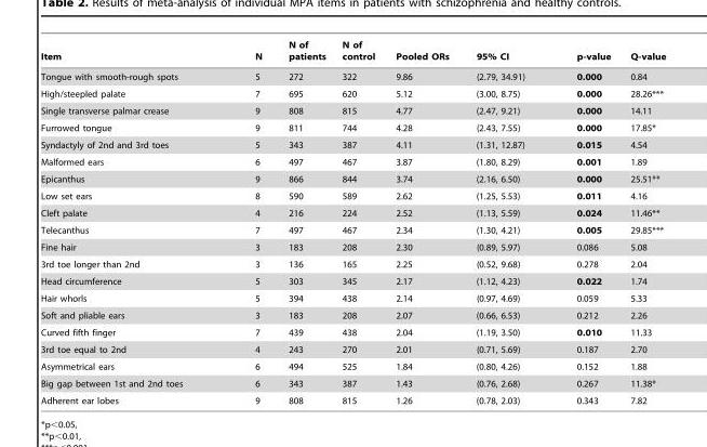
<table><thead><tr><td>Item</td><td>N</td><td>N of patients</td><td>N of control</td><td>Pooled ORs</td><td>95% CI</td><td>p-value</td><td>Q-value</td></tr></thead><tbody><tr><td>Tongue with smooth-rough spots</td><td>5</td><td>272</td><td>322</td><td>9.86</td><td>(2.79, 34.91)</td><td>0.000</td><td>0.84</td></tr><tr><td>High/steepled palate</td><td>7</td><td>695</td><td>620</td><td>5.12</td><td>(3.00, 8.75)</td><td>0.000</td><td>28.26***</td></tr><tr><td>Single transverse palmar crease</td><td>9</td><td>808</td><td>815</td><td>4.77</td><td>(2.47, 9.21)</td><td>0.000</td><td>14.11</td></tr><tr><td>Furrowed tongue</td><td>9</td><td>811</td><td>744</td><td>4.28</td><td>(2.43, 7.55)</td><td>0.000</td><td>17.85*</td></tr><tr><td>Syndactyly of 2nd and 3rd toes</td><td>5</td><td>343</td><td>387</td><td>4.11</td><td>(1.31, 12.87)</td><td>0.015</td><td>4.54</td></tr><tr><td>Malformed ears</td><td>6</td><td>497</td><td>467</td><td>3.87</td><td>(1.80, 8.29)</td><td>0.001</td><td>1.89</td></tr><tr><td>Epicanthus</td><td>9</td><td>866</td><td>844</td><td>3.74</td><td>(2.16, 6.50)</td><td>0.000</td><td>25.51**</td></tr><tr><td>Low set ears</td><td>8</td><td>590</td><td>589</td><td>2.62</td><td>(1.25, 5.53)</td><td>0.011</td><td>4.16</td></tr><tr><td>Cleft palate</td><td>4</td><td>216</td><td>224</td><td>2.52</td><td>(1.13, 5.59)</td><td>0.024</td><td>11.46**</td></tr><tr><td>Telecanthus</td><td>7</td><td>497</td><td>467</td><td>2.34</td><td>(1.30, 4.21)</td><td>0.005</td><td>29.85***</td></tr><tr><td>Fine hair</td><td>3</td><td>183</td><td>208</td><td>2.30</td><td>(0.89, 5.97)</td><td>0.086</td><td>5.08</td></tr><tr><td>3rd toe longer than 2nd</td><td>3</td><td>136</td><td>165</td><td>2.25</td><td>(0.52, 9.68)</td><td>0.278</td><td>2.04</td></tr><tr><td>Head circumference</td><td>5</td><td>303</td><td>345</td><td>2.17</td><td>(1.12, 4.23)</td><td>0.022</td><td>1.74</td></tr><tr><td>Hair whorls</td><td>5</td><td>394</td><td>438</td><td>2.14</td><td>(0.97, 4.69)</td><td>0.059</td><td>5.33</td></tr><tr><td>Soft and pliable ears</td><td>3</td><td>183</td><td>208</td><td>2.07</td><td>(0.66, 6.53)</td><td>0.212</td><td>2.26</td></tr><tr><td>Curved fifth finger</td><td>7</td><td>439</td><td>438</td><td>2.04</td><td>(1.19, 3.50)</td><td>0.010</td><td>11.33</td></tr><tr><td>3rd toe equal to 2nd</td><td>4</td><td>243</td><td>270</td><td>2.01</td><td>(0.71, 5.69)</td><td>0.187</td><td>2.70</td></tr><tr><td>Asymmetrical ears</td><td>6</td><td>494</td><td>525</td><td>1.84</td><td>(0.80, 4.26)</td><td>0.152</td><td>1.88</td></tr><tr><td>Big gap between 1st and 2nd toes</td><td>6</td><td>343</td><td>387</td><td>1.43</td><td>(0.76, 2.68)</td><td>0.267</td><td>11.38*</td></tr><tr><td>Adherent ear lobes</td><td>9</td><td>808</td><td>815</td><td>1.26</td><td>(0.78, 2.03)</td><td>0.343</td><td>7.82</td></tr></tbody></table>